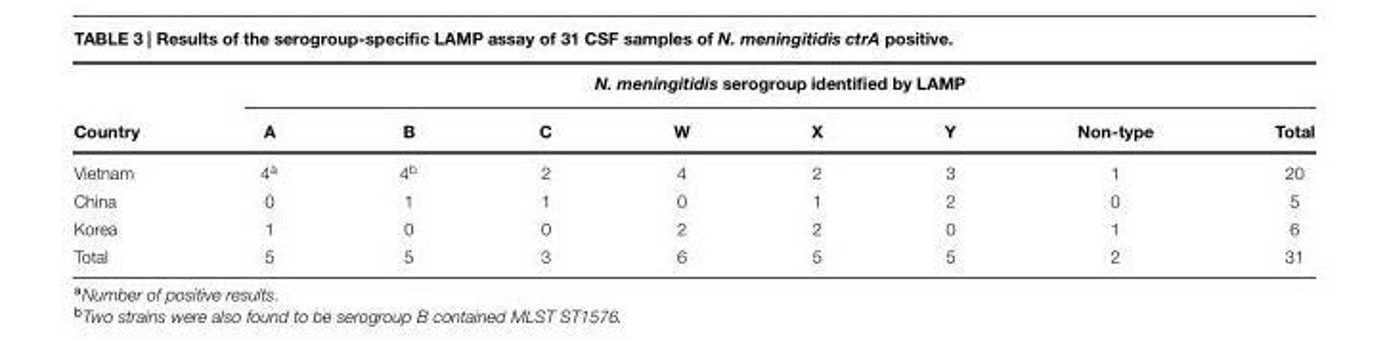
<table><thead><tr><td rowspan="2">Country</td><td colspan="8">N. meningitidis serogroup identified by LAMP</td></tr><tr><td>A</td><td>B</td><td>C</td><td>W</td><td>X</td><td>Y</td><td>Non-type</td><td>Total</td></tr></thead><tbody><tr><td>Vietnam</td><td>4<sup>a</sup></td><td>4<sup>b</sup></td><td>2</td><td>4</td><td>2</td><td>3</td><td>1</td><td>20</td></tr><tr><td>China</td><td>0</td><td>1</td><td>1</td><td>0</td><td>1</td><td>2</td><td>0</td><td>5</td></tr><tr><td>Korea</td><td>1</td><td>0</td><td>0</td><td>2</td><td>2</td><td>0</td><td>1</td><td>6</td></tr><tr><td>Total</td><td>5</td><td>5</td><td>3</td><td>6</td><td>5</td><td>5</td><td>2</td><td>31</td></tr></tbody></table>